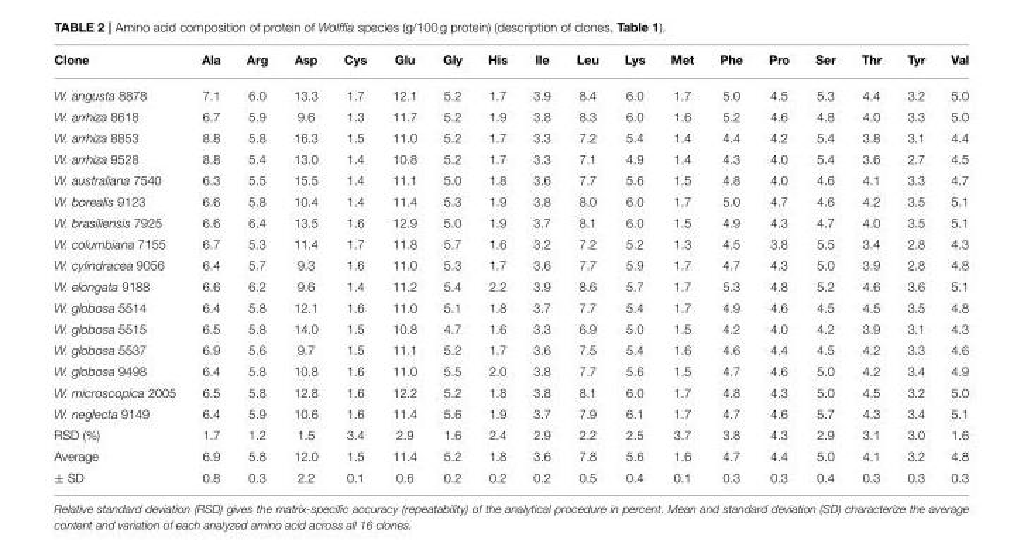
<table><thead><tr><td>Clone</td><td>Ala</td><td>Arg</td><td>Asp</td><td>Cys</td><td>Glu</td><td>Gly</td><td>His</td><td>Ile</td><td>Leu</td><td>Lys</td><td>Met</td><td>Phe</td><td>Pro</td><td>Ser</td><td>Thr</td><td>Tyr</td><td>Val</td></tr></thead><tbody><tr><td>W. angusta 8878</td><td>7.1</td><td>6.0</td><td>13.3</td><td>1.7</td><td>12.1</td><td>5.2</td><td>1.7</td><td>3.9</td><td>8.4</td><td>6.0</td><td>1.7</td><td>5.0</td><td>4.5</td><td>5.3</td><td>4.4</td><td>3.2</td><td>5.0</td></tr><tr><td>W. arrhiza 8618</td><td>6.7</td><td>5.9</td><td>9.6</td><td>1.3</td><td>11.7</td><td>5.2</td><td>1.9</td><td>3.8</td><td>8.3</td><td>6.0</td><td>1.6</td><td>5.2</td><td>4.6</td><td>4.8</td><td>4.0</td><td>3.3</td><td>5.0</td></tr><tr><td>W. arrhiza 8853</td><td>8.8</td><td>5.8</td><td>16.3</td><td>1.5</td><td>11.0</td><td>5.2</td><td>1.7</td><td>3.3</td><td>7.2</td><td>5.4</td><td>1.4</td><td>4.4</td><td>4.2</td><td>5.4</td><td>3.8</td><td>3.1</td><td>4.4</td></tr><tr><td>W. arrhiza 9528</td><td>8.8</td><td>5.4</td><td>13.0</td><td>1.4</td><td>10.8</td><td>5.2</td><td>1.7</td><td>3.3</td><td>7.1</td><td>4.9</td><td>1.4</td><td>4.3</td><td>4.0</td><td>5.4</td><td>3.6</td><td>2.7</td><td>4.5</td></tr><tr><td>W. australiana 7540</td><td>6.3</td><td>5.5</td><td>15.5</td><td>1.4</td><td>11.1</td><td>5.0</td><td>1.8</td><td>3.6</td><td>7.7</td><td>5.6</td><td>1.5</td><td>4.8</td><td>4.0</td><td>4.6</td><td>4.1</td><td>3.3</td><td>4.7</td></tr><tr><td>W. borealis 9123</td><td>6.6</td><td>5.8</td><td>10.4</td><td>1.4</td><td>11.4</td><td>5.3</td><td>1.9</td><td>3.8</td><td>8.0</td><td>6.0</td><td>1.7</td><td>5.0</td><td>4.7</td><td>4.6</td><td>4.2</td><td>3.5</td><td>5.1</td></tr><tr><td>W. brasiliensis 7925</td><td>6.6</td><td>6.4</td><td>13.5</td><td>1.6</td><td>12.9</td><td>5.0</td><td>1.9</td><td>3.7</td><td>8.1</td><td>6.0</td><td>1.5</td><td>4.9</td><td>4.3</td><td>4.7</td><td>4.0</td><td>3.5</td><td>5.1</td></tr><tr><td>W. columbiana 7155</td><td>6.7</td><td>5.3</td><td>11.4</td><td>1.7</td><td>11.8</td><td>5.7</td><td>1.6</td><td>3.2</td><td>7.2</td><td>5.2</td><td>1.3</td><td>4.5</td><td>3.8</td><td>5.5</td><td>3.4</td><td>2.8</td><td>4.3</td></tr><tr><td>W. cylindracea 9056</td><td>6.4</td><td>5.7</td><td>9.3</td><td>1.6</td><td>11.0</td><td>5.3</td><td>1.7</td><td>3.6</td><td>7.7</td><td>5.9</td><td>1.7</td><td>4.7</td><td>4.3</td><td>5.0</td><td>3.9</td><td>2.8</td><td>4.8</td></tr><tr><td>W. elongata 9188</td><td>6.6</td><td>6.2</td><td>9.6</td><td>1.4</td><td>11.2</td><td>5.4</td><td>2.2</td><td>3.9</td><td>8.6</td><td>5.7</td><td>1.7</td><td>5.3</td><td>4.8</td><td>5.2</td><td>4.6</td><td>3.6</td><td>5.1</td></tr><tr><td>W. globosa 5514</td><td>6.4</td><td>5.8</td><td>12.1</td><td>1.6</td><td>11.0</td><td>5.1</td><td>1.8</td><td>3.7</td><td>7.7</td><td>5.4</td><td>1.7</td><td>4.9</td><td>4.6</td><td>4.5</td><td>4.5</td><td>3.5</td><td>4.8</td></tr><tr><td>W. globosa 5515</td><td>6.5</td><td>5.8</td><td>14.0</td><td>1.5</td><td>10.8</td><td>4.7</td><td>1.6</td><td>3.3</td><td>6.9</td><td>5.0</td><td>1.5</td><td>4.2</td><td>4.0</td><td>4.2</td><td>3.9</td><td>3.1</td><td>4.3</td></tr><tr><td>W. globosa 5537</td><td>6.9</td><td>5.6</td><td>9.7</td><td>1.5</td><td>11.1</td><td>5.2</td><td>1.7</td><td>3.6</td><td>7.5</td><td>5.4</td><td>1.6</td><td>4.6</td><td>4.4</td><td>4.5</td><td>4.2</td><td>3.3</td><td>4.6</td></tr><tr><td>W. globosa 9498</td><td>6.4</td><td>5.8</td><td>10.8</td><td>1.6</td><td>11.0</td><td>5.5</td><td>2.0</td><td>3.8</td><td>7.7</td><td>5.6</td><td>1.5</td><td>4.7</td><td>4.6</td><td>5.0</td><td>4.2</td><td>3.4</td><td>4.9</td></tr><tr><td>W. microscopica 2005</td><td>6.5</td><td>5.8</td><td>12.8</td><td>1.6</td><td>12.2</td><td>5.2</td><td>1.8</td><td>3.8</td><td>8.1</td><td>6.0</td><td>1.7</td><td>4.8</td><td>4.3</td><td>5.0</td><td>4.5</td><td>3.2</td><td>5.0</td></tr><tr><td>W. neglecta 9149</td><td>6.4</td><td>5.9</td><td>10.6</td><td>1.6</td><td>11.4</td><td>5.6</td><td>1.9</td><td>3.7</td><td>7.9</td><td>6.1</td><td>1.7</td><td>4.7</td><td>4.6</td><td>5.7</td><td>4.3</td><td>3.4</td><td>5.1</td></tr><tr><td>RSD (%)</td><td>1.7</td><td>1.2</td><td>1.5</td><td>3.4</td><td>2.9</td><td>1.6</td><td>2.4</td><td>2.9</td><td>2.2</td><td>2.5</td><td>3.7</td><td>3.8</td><td>4.3</td><td>2.9</td><td>3.1</td><td>3.0</td><td>1.6</td></tr><tr><td>Average</td><td>6.9</td><td>5.8</td><td>12.0</td><td>1.5</td><td>11.4</td><td>5.2</td><td>1.8</td><td>3.6</td><td>7.8</td><td>5.6</td><td>1.6</td><td>4.7</td><td>4.4</td><td>5.0</td><td>4.1</td><td>3.2</td><td>4.8</td></tr><tr><td>± SD</td><td>0.8</td><td>0.3</td><td>2.2</td><td>0.1</td><td>0.6</td><td>0.2</td><td>0.2</td><td>0.2</td><td>0.5</td><td>0.4</td><td>0.1</td><td>0.3</td><td>0.3</td><td>0.4</td><td>0.3</td><td>0.3</td><td>0.3</td></tr></tbody></table>